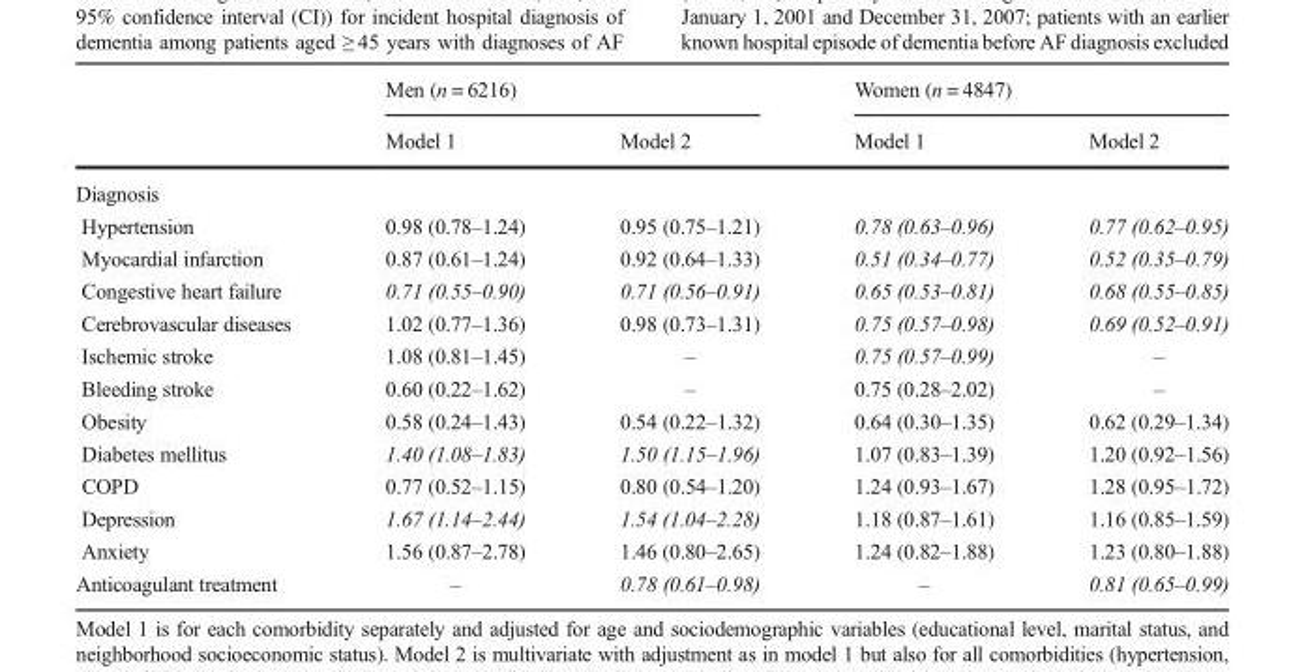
<table><thead><tr><td rowspan="2"></td><td colspan="2">Men (n = 6216)</td><td colspan="2">Women (n = 4847)</td></tr><tr><td>Model 1</td><td>Model 2</td><td>Model 1</td><td>Model 2</td></tr></thead><tbody><tr><td colspan="5">Diagnosis</td></tr><tr><td>Hypertension</td><td>0.98 (0.78–1.24)</td><td>0.95 (0.75–1.21)</td><td>0.78 (0.63–0.96)</td><td>0.77 (0.62–0.95)</td></tr><tr><td>Myocardial infarction</td><td>0.87 (0.61–1.24)</td><td>0.92 (0.64–1.33)</td><td>0.51 (0.34–0.77)</td><td>0.52 (0.35–0.79)</td></tr><tr><td>Congestive heart failure</td><td>0.71 (0.55–0.90)</td><td>0.71 (0.56–0.91)</td><td>0.65 (0.53–0.81)</td><td>0.68 (0.55–0.85)</td></tr><tr><td>Cerebrovascular diseases</td><td>1.02 (0.77–1.36)</td><td>0.98 (0.73–1.31)</td><td>0.75 (0.57–0.98)</td><td>0.69 (0.52–0.91)</td></tr><tr><td>Ischemic stroke</td><td>1.08 (0.81–1.45)</td><td>–</td><td>0.75 (0.57–0.99)</td><td>–</td></tr><tr><td>Bleeding stroke</td><td>0.60 (0.22–1.62)</td><td>–</td><td>0.75 (0.28–2.02)</td><td>–</td></tr><tr><td>Obesity</td><td>0.58 (0.24–1.43)</td><td>0.54 (0.22–1.32)</td><td>0.64 (0.30–1.35)</td><td>0.62 (0.29–1.34)</td></tr><tr><td>Diabetes mellitus</td><td>1.40 (1.08–1.83)</td><td>1.50 (1.15–1.96)</td><td>1.07 (0.83–1.39)</td><td>1.20 (0.92–1.56)</td></tr><tr><td>COPD</td><td>0.77 (0.52–1.15)</td><td>0.80 (0.54–1.20)</td><td>1.24 (0.93–1.67)</td><td>1.28 (0.95–1.72)</td></tr><tr><td>Depression</td><td>1.67 (1.14–2.44)</td><td>1.54 (1.04–2.28)</td><td>1.18 (0.87–1.61)</td><td>1.16 (0.85–1.59)</td></tr><tr><td>Anxiety</td><td>1.56 (0.87–2.78)</td><td>1.46 (0.80–2.65)</td><td>1.24 (0.82–1.88)</td><td>1.23 (0.80–1.88)</td></tr><tr><td>Anticoagulant treatment</td><td>–</td><td>0.78 (0.61–0.98)</td><td>–</td><td>0.81 (0.65–0.99)</td></tr></tbody></table>